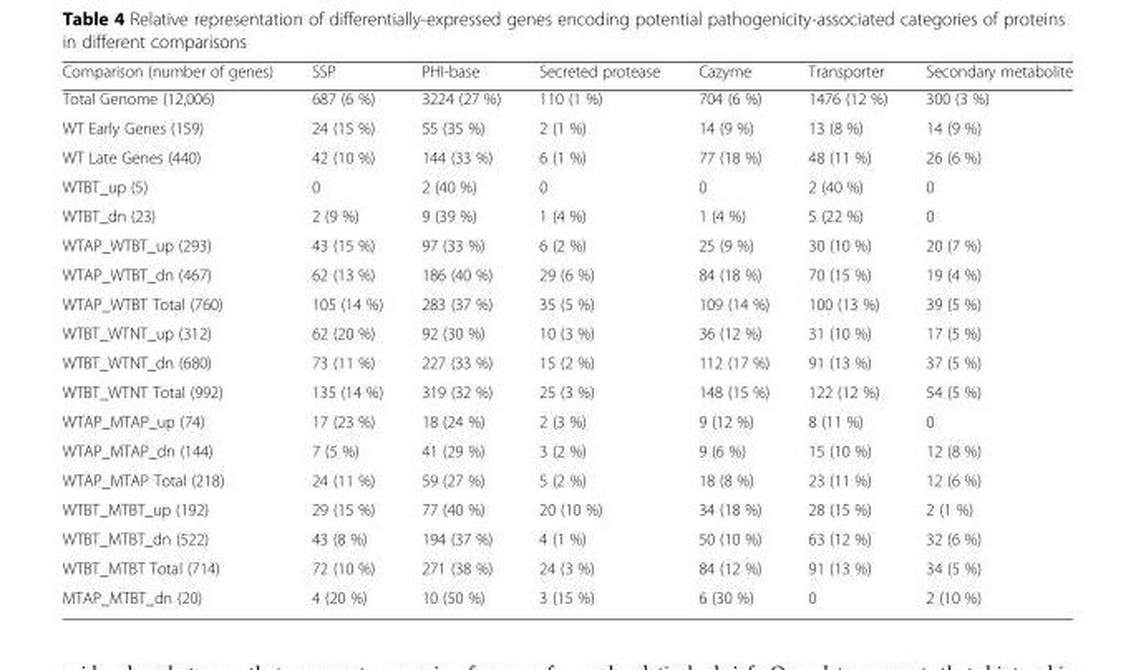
<table><thead><tr><td>Comparison (number of genes)</td><td>SSP</td><td>PHI-base</td><td>Secreted protease</td><td>Cazyme</td><td>Transporter</td><td>Secondary metabolite</td></tr></thead><tbody><tr><td>Total Genome (12,006)</td><td>687 (6 %)</td><td>3224 (27 %)</td><td>110 (1 %)</td><td>704 (6 %)</td><td>1476 (12 %)</td><td>300 (3 %)</td></tr><tr><td>WT Early Genes (159)</td><td>24 (15 %)</td><td>55 (35 %)</td><td>2 (1 %)</td><td>14 (9 %)</td><td>13 (8 %)</td><td>14 (9 %)</td></tr><tr><td>WT Late Genes (440)</td><td>42 (10 %)</td><td>144 (33 %)</td><td>6 (1 %)</td><td>77 (18 %)</td><td>48 (11 %)</td><td>26 (6 %)</td></tr><tr><td>WTBT_up (5)</td><td>0</td><td>2 (40 %)</td><td>0</td><td>0</td><td>2 (40 %)</td><td>0</td></tr><tr><td>WTBT_dn (23)</td><td>2 (9 %)</td><td>9 (39 %)</td><td>1 (4 %)</td><td>1 (4 %)</td><td>5 (22 %)</td><td>0</td></tr><tr><td>WTAP_WTBT_up (293)</td><td>43 (15 %)</td><td>97 (33 %)</td><td>6 (2 %)</td><td>25 (9 %)</td><td>30 (10 %)</td><td>20 (7 %)</td></tr><tr><td>WTAP_WTBT_dn (467)</td><td>62 (13 %)</td><td>186 (40 %)</td><td>29 (6 %)</td><td>84 (18 %)</td><td>70 (15 %)</td><td>19 (4 %)</td></tr><tr><td>WTAP_WTBT Total (760)</td><td>105 (14 %)</td><td>283 (37 %)</td><td>35 (5 %)</td><td>109 (14 %)</td><td>100 (13 %)</td><td>39 (5 %)</td></tr><tr><td>WTBT_WTNT_up (312)</td><td>62 (20 %)</td><td>92 (30 %)</td><td>10 (3 %)</td><td>36 (12 %)</td><td>31 (10 %)</td><td>17 (5 %)</td></tr><tr><td>WTBT_WTNT_dn (680)</td><td>73 (11 %)</td><td>227 (33 %)</td><td>15 (2 %)</td><td>112 (17 %)</td><td>91 (13 %)</td><td>37 (5 %)</td></tr><tr><td>WTBT_WTNT Total (992)</td><td>135 (14 %)</td><td>319 (32 %)</td><td>25 (3 %)</td><td>148 (15 %)</td><td>122 (12 %)</td><td>54 (5 %)</td></tr><tr><td>WTAP_MTAP_up (74)</td><td>17 (23 %)</td><td>18 (24 %)</td><td>2 (3 %)</td><td>9 (12 %)</td><td>8 (11 %)</td><td>0</td></tr><tr><td>WTAP_MTAP_dn (144)</td><td>7 (5 %)</td><td>41 (29 %)</td><td>3 (2 %)</td><td>9 (6 %)</td><td>15 (10 %)</td><td>12 (8 %)</td></tr><tr><td>WTAP_MTAP Total (218)</td><td>24 (11 %)</td><td>59 (27 %)</td><td>5 (2 %)</td><td>18 (8 %)</td><td>23 (11 %)</td><td>12 (6 %)</td></tr><tr><td>WTBT_MTBT_up (192)</td><td>29 (15 %)</td><td>77 (40 %)</td><td>20 (10 %)</td><td>34 (18 %)</td><td>28 (15 %)</td><td>2 (1 %)</td></tr><tr><td>WTBT_MTBT_dn (522)</td><td>43 (8 %)</td><td>194 (37 %)</td><td>4 (1 %)</td><td>50 (10 %)</td><td>63 (12 %)</td><td>32 (6 %)</td></tr><tr><td>WTBT_MTBT Total (714)</td><td>72 (10 %)</td><td>271 (38 %)</td><td>24 (3 %)</td><td>84 (12 %)</td><td>91 (13 %)</td><td>34 (5 %)</td></tr><tr><td>MTAP_MTBT_dn (20)</td><td>4 (20 %)</td><td>10 (50 %)</td><td>3 (15 %)</td><td>6 (30 %)</td><td>0</td><td>2 (10 %)</td></tr></tbody></table>